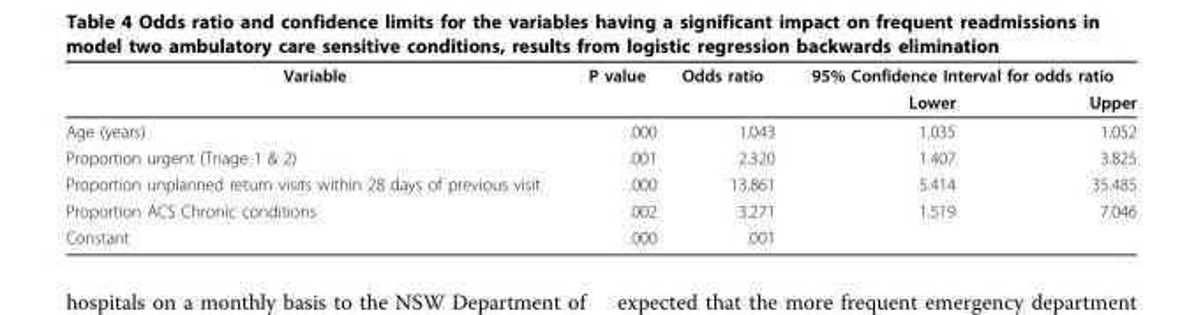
<table><thead><tr><td rowspan="2">Variable</td><td rowspan="2">P value</td><td rowspan="2">Odds ratio</td><td colspan="2">95% Confidence Interval for odds ratio</td></tr><tr><td>Lower</td><td>Upper</td></tr></thead><tbody><tr><td>Age (years)</td><td>.000</td><td>1.043</td><td>1.035</td><td>1.052</td></tr><tr><td>Proportion urgent (Triage 1 &amp; 2)</td><td>.001</td><td>2.320</td><td>1.407</td><td>3.825</td></tr><tr><td>Proportion unplanned return visits within 28 days of previous visit</td><td>.000</td><td>13.861</td><td>5.414</td><td>35.485</td></tr><tr><td>Proportion ACS Chronic conditions</td><td>.002</td><td>3.271</td><td>1.519</td><td>7.046</td></tr><tr><td>Constant</td><td>.000</td><td>.001</td><td></td><td></td></tr></tbody></table>